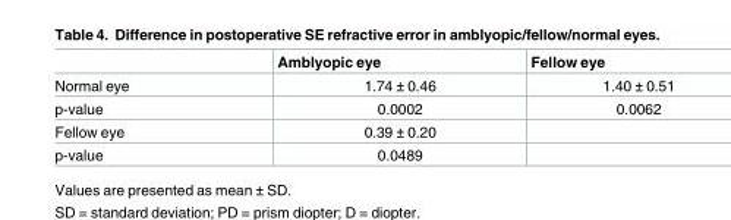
<table><thead><tr><td></td><td>Amblyopic eye</td><td>Fellow eye</td></tr></thead><tbody><tr><td>Normal eye</td><td>1.74 ± 0.46</td><td>1.40 ± 0.51</td></tr><tr><td>p-value</td><td>0.0002</td><td>0.0062</td></tr><tr><td>Fellow eye</td><td>0.39 ± 0.20</td><td></td></tr><tr><td>p-value</td><td>0.0489</td><td></td></tr></tbody></table>